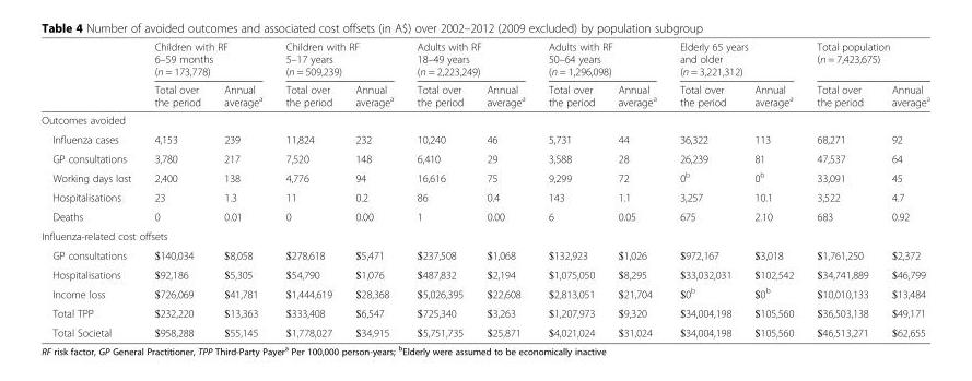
<table><thead><tr><td rowspan="2"></td><td colspan="2">Children with RF 6–59 months (n = 173,778)</td><td colspan="2">Children with RF 5–17 years (n = 509,239)</td><td colspan="2">Adults with RF 18–49 years (n = 2,223,249)</td><td colspan="2">Adults with RF 50–64 years (n = 1,296,098)</td><td colspan="2">Elderly 65 years and older (n = 3,221,312)</td><td colspan="2">Total population (n = 7,423,675)</td></tr><tr><td>Total over the period</td><td>Annual average<sup>a</sup></td><td>Total over the period</td><td>Annual average<sup>a</sup></td><td>Total over the period</td><td>Annual average<sup>a</sup></td><td>Total over the period</td><td>Annual average<sup>a</sup></td><td>Total over the period</td><td>Annual average<sup>a</sup></td><td>Total over the period</td><td>Annual average<sup>a</sup></td></tr></thead><tbody><tr><td colspan="13">Outcomes avoided</td></tr><tr><td>Influenza cases</td><td>4,153</td><td>239</td><td>11,824</td><td>232</td><td>10,240</td><td>46</td><td>5,731</td><td>44</td><td>36,322</td><td>113</td><td>68,271</td><td>92</td></tr><tr><td>GP consultations</td><td>3,780</td><td>217</td><td>7,520</td><td>148</td><td>6,410</td><td>29</td><td>3,588</td><td>28</td><td>26,239</td><td>81</td><td>47,537</td><td>64</td></tr><tr><td>Working days lost</td><td>2,400</td><td>138</td><td>4,776</td><td>94</td><td>16,616</td><td>75</td><td>9,299</td><td>72</td><td>0<sup>b</sup></td><td>0<sup>b</sup></td><td>33,091</td><td>45</td></tr><tr><td>Hospitalisations</td><td>23</td><td>1.3</td><td>11</td><td>0.2</td><td>86</td><td>0.4</td><td>143</td><td>1.1</td><td>3,257</td><td>10.1</td><td>3,522</td><td>4.7</td></tr><tr><td>Deaths</td><td>0</td><td>0.01</td><td>0</td><td>0.00</td><td>1</td><td>0.00</td><td>6</td><td>0.05</td><td>675</td><td>2.10</td><td>683</td><td>0.92</td></tr><tr><td colspan="13">Influenza-related cost offsets</td></tr><tr><td>GP consultations</td><td>$140,034</td><td>$8,058</td><td>$278,618</td><td>$5,471</td><td>$237,508</td><td>$1,068</td><td>$132,923</td><td>$1,026</td><td>$972,167</td><td>$3,018</td><td>$1,761,250</td><td>$2,372</td></tr><tr><td>Hospitalisations</td><td>$92,186</td><td>$5,305</td><td>$54,790</td><td>$1,076</td><td>$487,832</td><td>$2,194</td><td>$1,075,050</td><td>$8,295</td><td>$33,032,031</td><td>$102,542</td><td>$34,741,889</td><td>$46,799</td></tr><tr><td>Income loss</td><td>$726,069</td><td>$41,781</td><td>$1,444,619</td><td>$28,368</td><td>$5,026,395</td><td>$22,608</td><td>$2,813,051</td><td>$21,704</td><td>$0<sup>b</sup></td><td>$0<sup>b</sup></td><td>$10,010,133</td><td>$13,484</td></tr><tr><td>Total TPP</td><td>$232,220</td><td>$13,363</td><td>$333,408</td><td>$6,547</td><td>$725,340</td><td>$3,263</td><td>$1,207,973</td><td>$9,320</td><td>$34,004,198</td><td>$105,560</td><td>$36,503,138</td><td>$49,171</td></tr><tr><td>Total Societal</td><td>$958,288</td><td>$55,145</td><td>$1,778,027</td><td>$34,915</td><td>$5,751,735</td><td>$25,871</td><td>$4,021,024</td><td>$31,024</td><td>$34,004,198</td><td>$105,560</td><td>$46,513,271</td><td>$62,655</td></tr></tbody></table>